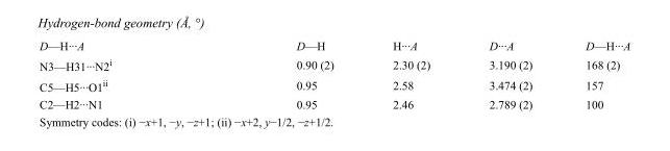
<table><tbody><tr><td>D—H···A</td><td>D—H</td><td>H···A</td><td>D···A</td><td>D—H···A</td></tr><tr><td>N3—H31···N2<sup>i</sup></td><td>0.90 (2)</td><td>2.30 (2)</td><td>3.190 (2)</td><td>168 (2)</td></tr><tr><td>C5—H5···O1<sup>ii</sup></td><td>0.95</td><td>2.58</td><td>3.474 (2)</td><td>157</td></tr><tr><td>C2—H2···N1</td><td>0.95</td><td>2.46</td><td>2.789 (2)</td><td>100</td></tr></tbody></table>